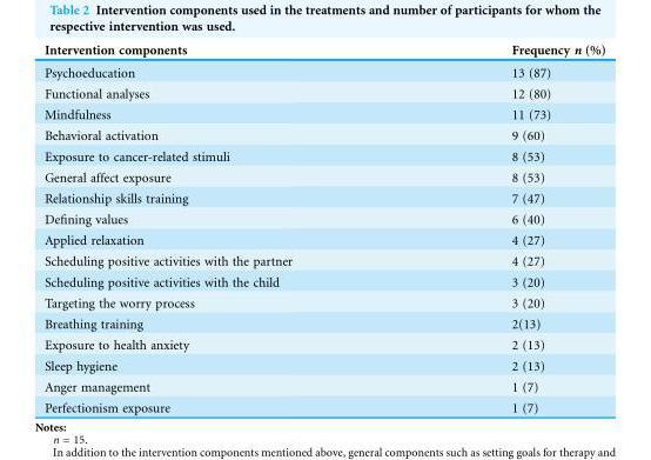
<table><thead><tr><td>Intervention components</td><td>Frequency n (%)</td></tr></thead><tbody><tr><td>Psychoeducation</td><td>13 (87)</td></tr><tr><td>Functional analyses</td><td>12 (80)</td></tr><tr><td>Mindfulness</td><td>11 (73)</td></tr><tr><td>Behavioral activation</td><td>9 (60)</td></tr><tr><td>Exposure to cancer-related stimuli</td><td>8 (53)</td></tr><tr><td>General affect exposure</td><td>8 (53)</td></tr><tr><td>Relationship skills training</td><td>7 (47)</td></tr><tr><td>Defining values</td><td>6 (40)</td></tr><tr><td>Applied relaxation</td><td>4 (27)</td></tr><tr><td>Scheduling positive activities with the partner</td><td>4 (27)</td></tr><tr><td>Scheduling positive activities with the child</td><td>3 (20)</td></tr><tr><td>Targeting the worry process</td><td>3 (20)</td></tr><tr><td>Breathing training</td><td>2(13)</td></tr><tr><td>Exposure to health anxiety</td><td>2 (13)</td></tr><tr><td>Sleep hygiene</td><td>2 (13)</td></tr><tr><td>Anger management</td><td>1 (7)</td></tr><tr><td>Perfectionism exposure</td><td>1 (7)</td></tr></tbody></table>